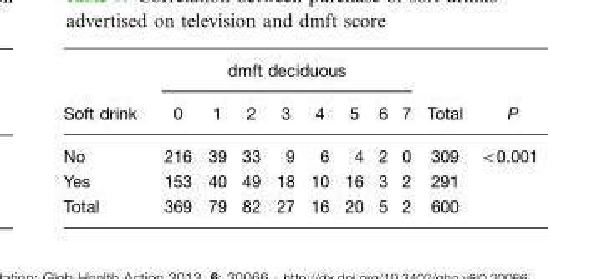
<table><thead><tr><td rowspan="2">Soft drink</td><td colspan="8">dmft deciduous</td><td rowspan="2">Total</td><td rowspan="2">P</td></tr><tr><td>0</td><td>1</td><td>2</td><td>3</td><td>4</td><td>5</td><td>6</td><td>7</td></tr></thead><tbody><tr><td>No</td><td>216</td><td>39</td><td>33</td><td>9</td><td>6</td><td>4</td><td>2</td><td>0</td><td>309</td><td>&lt;0.001</td></tr><tr><td>Yes</td><td>153</td><td>40</td><td>49</td><td>18</td><td>10</td><td>16</td><td>3</td><td>2</td><td>291</td><td></td></tr><tr><td>Total</td><td>369</td><td>79</td><td>82</td><td>27</td><td>16</td><td>20</td><td>5</td><td>2</td><td>600</td><td></td></tr></tbody></table>